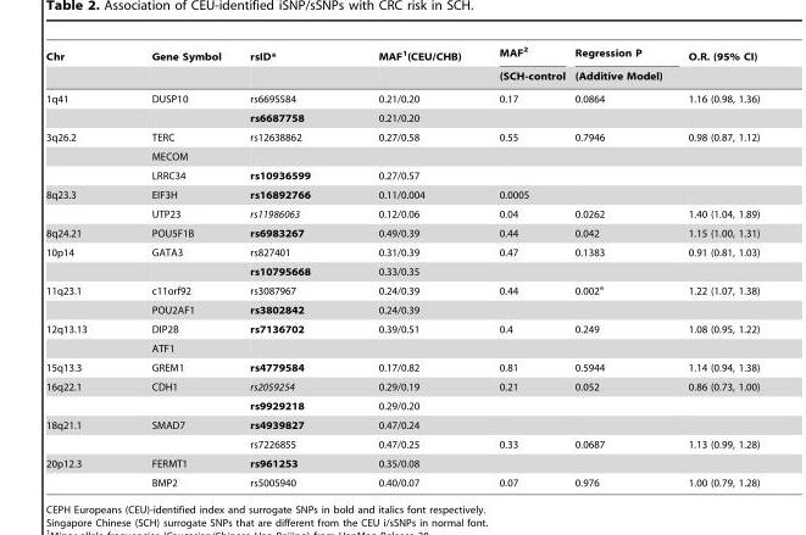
<table><thead><tr><td rowspan="2">Chr</td><td rowspan="2">Gene Symbol</td><td rowspan="2">rsID*</td><td rowspan="2">MAF<sup>1</sup>(CEU/CHB)</td><td rowspan="2">MAF<sup>2</sup> (SCH-control</td><td rowspan="2">Regression P (Additive Model)</td><td rowspan="2">O.R. (95% CI)</td></tr><tr></tr></thead><tbody><tr><td rowspan="2">1q41</td><td>DUSP10</td><td>rs6695584</td><td>0.21/0.20</td><td>0.17</td><td>0.0864</td><td>1.16 (0.98, 1.36)</td></tr><tr><td></td><td>rs6687758</td><td>0.21/0.20</td><td></td><td></td><td></td></tr><tr><td rowspan="3">3q26.2</td><td>TERC</td><td>rs12638862</td><td>0.27/0.58</td><td>0.55</td><td>0.7946</td><td>0.98 (0.87, 1.12)</td></tr><tr><td>MECOM</td><td></td><td></td><td></td><td></td><td></td></tr><tr><td>LRRC34</td><td>rs10936599</td><td>0.27/0.57</td><td></td><td></td><td></td></tr><tr><td rowspan="2">8q23.3</td><td>EIF3H</td><td>rs16892766</td><td>0.11/0.004</td><td>0.0005</td><td></td><td></td></tr><tr><td>UTP23</td><td>rs11986063</td><td>0.12/0.06</td><td>0.04</td><td>0.0262</td><td>1.40 (1.04, 1.89)</td></tr><tr><td>8q24.21</td><td>POU5F1B</td><td>rs6983267</td><td>0.49/0.39</td><td>0.44</td><td>0.042</td><td>1.15 (1.00, 1.31)</td></tr><tr><td rowspan="2">10p14</td><td>GATA3</td><td>rs827401</td><td>0.31/0.39</td><td>0.47</td><td>0.1383</td><td>0.91 (0.81, 1.03)</td></tr><tr><td></td><td>rs10795668</td><td>0.33/0.35</td><td></td><td></td><td></td></tr><tr><td rowspan="2">11q23.1</td><td>c11orf92</td><td>rs3087967</td><td>0.24/0.39</td><td>0.44</td><td>0.002<sup>a</sup></td><td>1.22 (1.07, 1.38)</td></tr><tr><td>POU2AF1</td><td>rs3802842</td><td>0.24/0.39</td><td></td><td></td><td></td></tr><tr><td rowspan="2">12q13.13</td><td>DIP2B</td><td>rs7136702</td><td>0.39/0.51</td><td>0.4</td><td>0.249</td><td>1.08 (0.95, 1.22)</td></tr><tr><td>ATF1</td><td></td><td></td><td></td><td></td><td></td></tr><tr><td>15q13.3</td><td>GREM1</td><td>rs4779584</td><td>0.17/0.82</td><td>0.81</td><td>0.5944</td><td>1.14 (0.94, 1.38)</td></tr><tr><td rowspan="2">16q22.1</td><td>CDH1</td><td>rs2059254</td><td>0.29/0.19</td><td>0.21</td><td>0.052</td><td>0.86 (0.73, 1.00)</td></tr><tr><td></td><td>rs9929218</td><td>0.29/0.20</td><td></td><td></td><td></td></tr><tr><td rowspan="2">18q21.1</td><td>SMAD7</td><td>rs4939827</td><td>0.47/0.24</td><td></td><td></td><td></td></tr><tr><td></td><td>rs7226855</td><td>0.47/0.25</td><td>0.33</td><td>0.0687</td><td>1.13 (0.99, 1.28)</td></tr><tr><td rowspan="2">20p12.3</td><td>FERMT1</td><td>rs961253</td><td>0.35/0.08</td><td></td><td></td><td></td></tr><tr><td>BMP2</td><td>rs5005940</td><td>0.40/0.07</td><td>0.07</td><td>0.976</td><td>1.00 (0.79, 1.28)</td></tr></tbody></table>